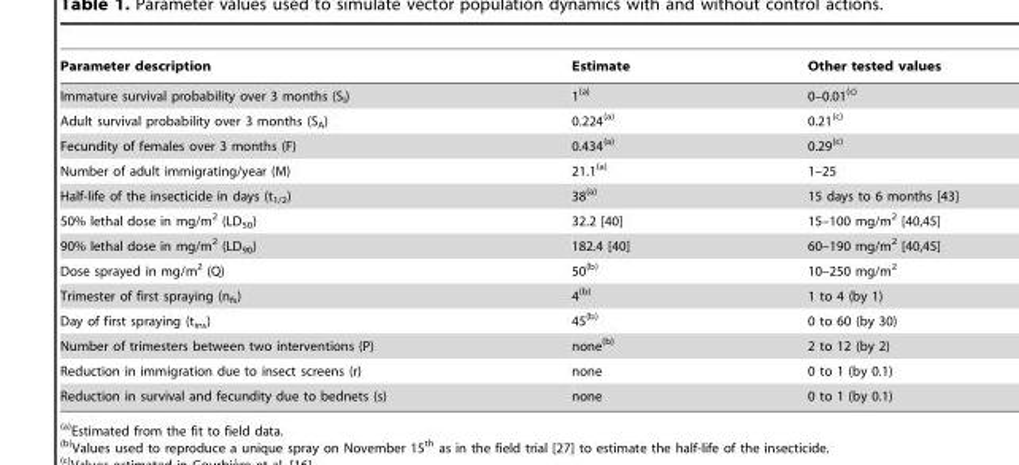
<table><thead><tr><td>Parameter description</td><td>Estimate</td><td>Other tested values</td></tr></thead><tbody><tr><td>Immature survival probability over 3 months (S<sub>I</sub>)</td><td>1(a)</td><td>0–0.01(c)</td></tr><tr><td>Adult survival probability over 3 months (S<sub>A</sub>)</td><td>0.224(a)</td><td>0.21(c)</td></tr><tr><td>Fecundity of females over 3 months (F)</td><td>0.434(a)</td><td>0.29(c)</td></tr><tr><td>Number of adult immigrating/year (M)</td><td>21.1(a)</td><td>1–25</td></tr><tr><td>Half-life of the insecticide in days (t<sub>1/2</sub>)</td><td>38(a)</td><td>15 days to 6 months [43]</td></tr><tr><td>50% lethal dose in mg/m<sup>2</sup> (LD<sub>50</sub>)</td><td>32.2 [40]</td><td>15–100 mg/m2 [40,45]</td></tr><tr><td>90% lethal dose in mg/m<sup>2</sup> (LD<sub>90</sub>)</td><td>182.4 [40]</td><td>60–190 mg/m2 [40,45]</td></tr><tr><td>Dose sprayed in mg/m<sup>2</sup> (Q)</td><td>50(b)</td><td>10–250 mg/m<sup>2</sup></td></tr><tr><td>Trimester of first spraying (n<sub>fs</sub>)</td><td>4(b)</td><td>1 to 4 (by 1)</td></tr><tr><td>Day of first spraying (t<sub>ins</sub>)</td><td>45(b)</td><td>0 to 60 (by 30)</td></tr><tr><td>Number of trimesters between two interventions (P)</td><td>none(b)</td><td>2 to 12 (by 2)</td></tr><tr><td>Reduction in immigration due to insect screens (r)</td><td>none</td><td>0 to 1 (by 0.1)</td></tr><tr><td>Reduction in survival and fecundity due to bednets (s)</td><td>none</td><td>0 to 1 (by 0.1)</td></tr></tbody></table>